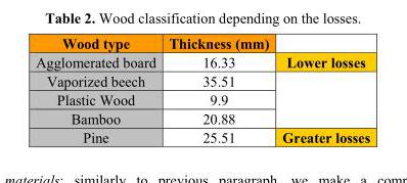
<table><thead><tr><td>Wood type</td><td>Thickness (mm)</td><td></td></tr></thead><tbody><tr><td>Agglomerated board</td><td>16.33</td><td>Lower losses</td></tr><tr><td>Vaporized beech</td><td>35.51</td><td rowspan="3"></td></tr><tr><td>Plastic Wood</td><td>9.9</td></tr><tr><td>Bamboo</td><td>20.88</td></tr><tr><td>Pine</td><td>25.51</td><td>Greater losses</td></tr></tbody></table>